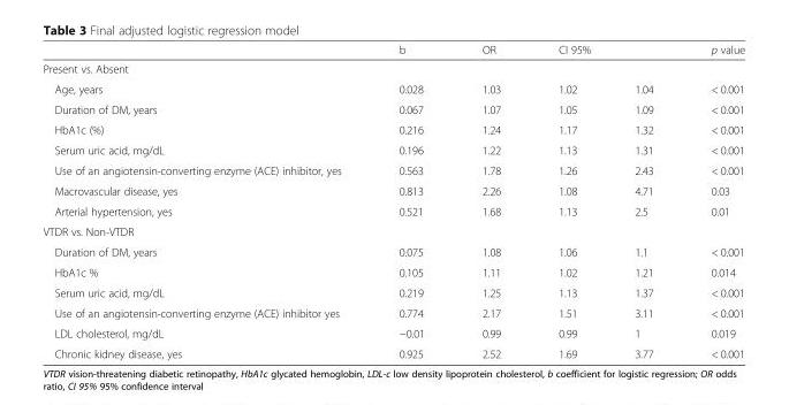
<table><thead><tr><td></td><td>b</td><td>OR</td><td colspan="2">CI 95%</td><td>p value</td></tr><tr><td colspan="6">Present vs. Absent</td></tr><tr><td>Age, years</td><td>0.028</td><td>1.03</td><td>1.02</td><td>1.04</td><td>&lt; 0.001</td></tr></thead><tbody><tr><td>Duration of DM, years</td><td>0.067</td><td>1.07</td><td>1.05</td><td>1.09</td><td>&lt; 0.001</td></tr><tr><td>HbA1c (%)</td><td>0.216</td><td>1.24</td><td>1.17</td><td>1.32</td><td>&lt; 0.001</td></tr><tr><td>Serum uric acid, mg/dL</td><td>0.196</td><td>1.22</td><td>1.13</td><td>1.31</td><td>&lt; 0.001</td></tr><tr><td>Use of an angiotensin-converting enzyme (ACE) inhibitor, yes</td><td>0.563</td><td>1.78</td><td>1.26</td><td>2.43</td><td>&lt; 0.001</td></tr><tr><td>Macrovascular disease, yes</td><td>0.813</td><td>2.26</td><td>1.08</td><td>4.71</td><td>0.03</td></tr><tr><td>Arterial hypertension, yes</td><td>0.521</td><td>1.68</td><td>1.13</td><td>2.5</td><td>0.01</td></tr><tr><td colspan="6">VTDR vs. Non-VTDR</td></tr><tr><td>Duration of DM, years</td><td>0.075</td><td>1.08</td><td>1.06</td><td>1.1</td><td>&lt; 0.001</td></tr><tr><td>HbA1c %</td><td>0.105</td><td>1.11</td><td>1.02</td><td>1.21</td><td>0.014</td></tr><tr><td>Serum uric acid, mg/dL</td><td>0.219</td><td>1.25</td><td>1.13</td><td>1.37</td><td>&lt; 0.001</td></tr><tr><td>Use of an angiotensin-converting enzyme (ACE) inhibitor yes</td><td>0.774</td><td>2.17</td><td>1.51</td><td>3.11</td><td>&lt; 0.001</td></tr><tr><td>LDL cholesterol, mg/dL</td><td>−0.01</td><td>0.99</td><td>0.99</td><td>1</td><td>0.019</td></tr><tr><td>Chronic kidney disease, yes</td><td>0.925</td><td>2.52</td><td>1.69</td><td>3.77</td><td>&lt; 0.001</td></tr></tbody></table>